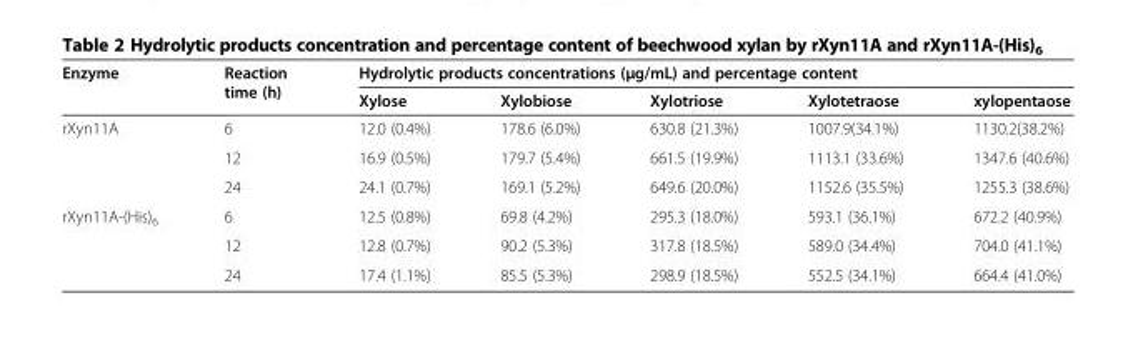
<table><thead><tr><td rowspan="2">Enzyme</td><td rowspan="2">Reaction time (h)</td><td colspan="5">Hydrolytic products concentrations (μg/mL) and percentage content</td></tr><tr><td>Xylose</td><td>Xylobiose</td><td>Xylotriose</td><td>Xylotetraose</td><td>xylopentaose</td></tr></thead><tbody><tr><td rowspan="3">rXyn11A</td><td>6</td><td>12.0 (0.4%)</td><td>178.6 (6.0%)</td><td>630.8 (21.3%)</td><td>1007.9(34.1%)</td><td>1130.2(38.2%)</td></tr><tr><td>12</td><td>16.9 (0.5%)</td><td>179.7 (5.4%)</td><td>661.5 (19.9%)</td><td>1113.1 (33.6%)</td><td>1347.6 (40.6%)</td></tr><tr><td>24</td><td>24.1 (0.7%)</td><td>169.1 (5.2%)</td><td>649.6 (20.0%)</td><td>1152.6 (35.5%)</td><td>1255.3 (38.6%)</td></tr><tr><td rowspan="3">rXyn11A-(His)<sub>6</sub></td><td>6</td><td>12.5 (0.8%)</td><td>69.8 (4.2%)</td><td>295.3 (18.0%)</td><td>593.1 (36.1%)</td><td>672.2 (40.9%)</td></tr><tr><td>12</td><td>12.8 (0.7%)</td><td>90.2 (5.3%)</td><td>317.8 (18.5%)</td><td>589.0 (34.4%)</td><td>704.0 (41.1%)</td></tr><tr><td>24</td><td>17.4 (1.1%)</td><td>85.5 (5.3%)</td><td>298.9 (18.5%)</td><td>552.5 (34.1%)</td><td>664.4 (41.0%)</td></tr></tbody></table>